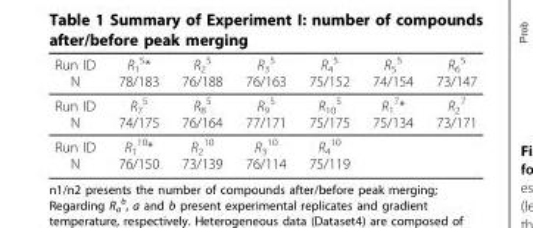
<table><thead><tr><td>Run ID N</td><td>R<sub>1</sub> <sup>5</sup>* 78/183</td><td>R<sub>2</sub> <sup>5</sup> 76/188</td><td>R<sub>3</sub> <sup>5</sup> 76/163</td><td>R<sub>4</sub> <sup>5</sup> 75/152</td><td>R<sub>5</sub> <sup>5</sup> 74/154</td><td>R<sub>6</sub> <sup>5</sup> 73/147</td></tr></thead><tbody><tr><td>Run ID N</td><td>R<sub>7</sub> <sup>5</sup> 74/175</td><td>R<sub>8</sub> <sup>5</sup> 76/164</td><td>R<sub>9</sub> <sup>5</sup> 77/171</td><td>R<sub>10</sub> <sup>5</sup> 75/175</td><td>R<sub>1</sub> <sup>7</sup>* 75/134</td><td>R<sub>2</sub> <sup>7</sup> 73/171</td></tr><tr><td>Run ID N</td><td>R<sub>1</sub> <sup>10</sup>* 76/150</td><td>R<sub>2</sub> <sup>10</sup> 73/139</td><td>R<sub>3</sub> <sup>10</sup> 76/114</td><td>R<sub>4</sub> <sup>10</sup> 75/119</td><td></td><td></td></tr></tbody></table>